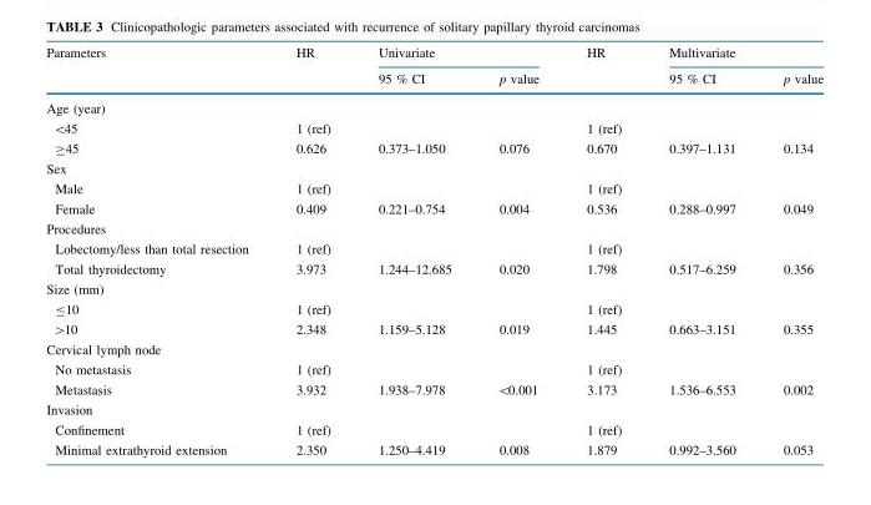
<table><thead><tr><td rowspan="2">Parameters</td><td rowspan="2">HR</td><td colspan="2">Univariate</td><td rowspan="2">HR</td><td colspan="2">Multivariate</td></tr><tr><td>95 % CI</td><td>p value</td><td>95 % CI</td><td>p value</td></tr></thead><tbody><tr><td colspan="7">Age (year)</td></tr><tr><td>&lt;45</td><td>1 (ref)</td><td></td><td></td><td>1 (ref)</td><td></td><td></td></tr><tr><td>≥45</td><td>0.626</td><td>0.373–1.050</td><td>0.076</td><td>0.670</td><td>0.397–1.131</td><td>0.134</td></tr><tr><td colspan="7">Sex</td></tr><tr><td>Male</td><td>1 (ref)</td><td></td><td></td><td>1 (ref)</td><td></td><td></td></tr><tr><td>Female</td><td>0.409</td><td>0.221–0.754</td><td>0.004</td><td>0.536</td><td>0.288–0.997</td><td>0.049</td></tr><tr><td colspan="7">Procedures</td></tr><tr><td>Lobectomy/less than total resection</td><td>1 (ref)</td><td></td><td></td><td>1 (ref)</td><td></td><td></td></tr><tr><td>Total thyroidectomy</td><td>3.973</td><td>1.244–12.685</td><td>0.020</td><td>1.798</td><td>0.517–6.259</td><td>0.356</td></tr><tr><td colspan="7">Size (mm)</td></tr><tr><td>≤10</td><td>1 (ref)</td><td></td><td></td><td>1 (ref)</td><td></td><td></td></tr><tr><td>&gt;10</td><td>2.348</td><td>1.159–5.128</td><td>0.019</td><td>1.445</td><td>0.663–3.151</td><td>0.355</td></tr><tr><td colspan="7">Cervical lymph node</td></tr><tr><td>No metastasis</td><td>1 (ref)</td><td></td><td></td><td>1 (ref)</td><td></td><td></td></tr><tr><td>Metastasis</td><td>3.932</td><td>1.938–7.978</td><td>&lt;0.001</td><td>3.173</td><td>1.536–6.553</td><td>0.002</td></tr><tr><td colspan="7">Invasion</td></tr><tr><td>Confinement</td><td>1 (ref)</td><td></td><td></td><td>1 (ref)</td><td></td><td></td></tr><tr><td>Minimal extrathyroid extension</td><td>2.350</td><td>1.250–4.419</td><td>0.008</td><td>1.879</td><td>0.992–3.560</td><td>0.053</td></tr></tbody></table>